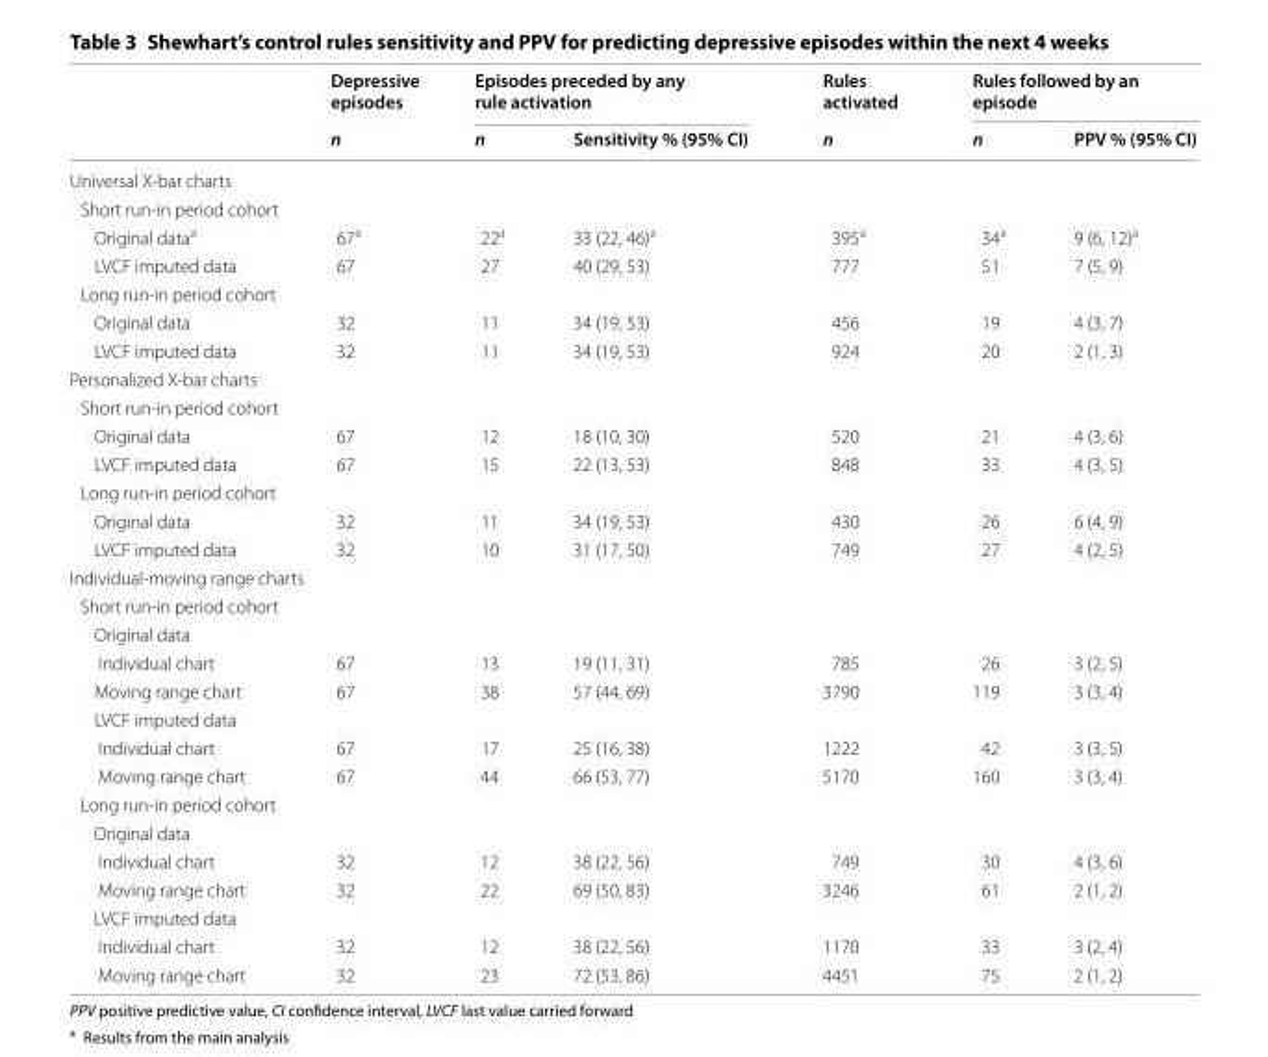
<table><thead><tr><td rowspan="2"></td><td rowspan="2">Depressive episodes n</td><td colspan="2">Episodes preceded by any rule activation</td><td rowspan="2">Rules activated n</td><td colspan="2">Rules followed by an episode</td></tr><tr><td>n</td><td>Sensitivity % (95% CI)</td><td>n</td><td>PPV % (95% CI)</td></tr></thead><tbody><tr><td colspan="7">Universal X‑bar charts</td></tr><tr><td colspan="7">Short run‑in period cohort</td></tr><tr><td>Original data<sup>a</sup></td><td>67<sup>a</sup></td><td>22<sup>a</sup></td><td>33 (22, 46)<sup>a</sup></td><td>395<sup>a</sup></td><td>34<sup>a</sup></td><td>9 (6, 12)<sup>a</sup></td></tr><tr><td>LVCF imputed data</td><td>67</td><td>27</td><td>40 (29, 53)</td><td>777</td><td>51</td><td>7 (5, 9)</td></tr><tr><td colspan="7">Long run‑in period cohort</td></tr><tr><td>Original data</td><td>32</td><td>11</td><td>34 (19, 53)</td><td>456</td><td>19</td><td>4 (3, 7)</td></tr><tr><td>LVCF imputed data</td><td>32</td><td>11</td><td>34 (19, 53)</td><td>924</td><td>20</td><td>2 (1, 3)</td></tr><tr><td colspan="7">Personalized X‑bar charts</td></tr><tr><td colspan="7">Short run‑in period cohort</td></tr><tr><td>Original data</td><td>67</td><td>12</td><td>18 (10, 30)</td><td>520</td><td>21</td><td>4 (3, 6)</td></tr><tr><td>LVCF imputed data</td><td>67</td><td>15</td><td>22 (13, 53)</td><td>848</td><td>33</td><td>4 (3, 5)</td></tr><tr><td colspan="7">Long run‑in period cohort</td></tr><tr><td>Original data</td><td>32</td><td>11</td><td>34 (19, 53)</td><td>430</td><td>26</td><td>6 (4, 9)</td></tr><tr><td>LVCF imputed data</td><td>32</td><td>10</td><td>31 (17, 50)</td><td>749</td><td>27</td><td>4 (2, 5)</td></tr><tr><td colspan="7">Individual‑moving range charts</td></tr><tr><td colspan="7">Short run‑in period cohort</td></tr><tr><td colspan="7">Original data</td></tr><tr><td>Individual chart</td><td>67</td><td>13</td><td>19 (11, 31)</td><td>785</td><td>26</td><td>3 (2, 5)</td></tr><tr><td>Moving range chart</td><td>67</td><td>38</td><td>57 (44, 69)</td><td>3790</td><td>119</td><td>3 (3, 4)</td></tr><tr><td colspan="7">LVCF imputed data</td></tr><tr><td>Individual chart</td><td>67</td><td>17</td><td>25 (16, 38)</td><td>1222</td><td>42</td><td>3 (3, 5)</td></tr><tr><td>Moving range chart</td><td>67</td><td>44</td><td>66 (53, 77)</td><td>5170</td><td>160</td><td>3 (3, 4)</td></tr><tr><td colspan="7">Long run‑in period cohort</td></tr><tr><td colspan="7">Original data</td></tr><tr><td>Individual chart</td><td>32</td><td>12</td><td>38 (22, 56)</td><td>749</td><td>30</td><td>4 (3, 6)</td></tr><tr><td>Moving range chart</td><td>32</td><td>22</td><td>69 (50, 83)</td><td>3246</td><td>61</td><td>2 (1, 2)</td></tr><tr><td colspan="7">LVCF imputed data</td></tr><tr><td>Individual chart</td><td>32</td><td>12</td><td>38 (22, 56)</td><td>1170</td><td>33</td><td>3 (2, 4)</td></tr><tr><td>Moving range chart</td><td>32</td><td>23</td><td>72 (53, 86)</td><td>4451</td><td>75</td><td>2 (1, 2)</td></tr></tbody></table>